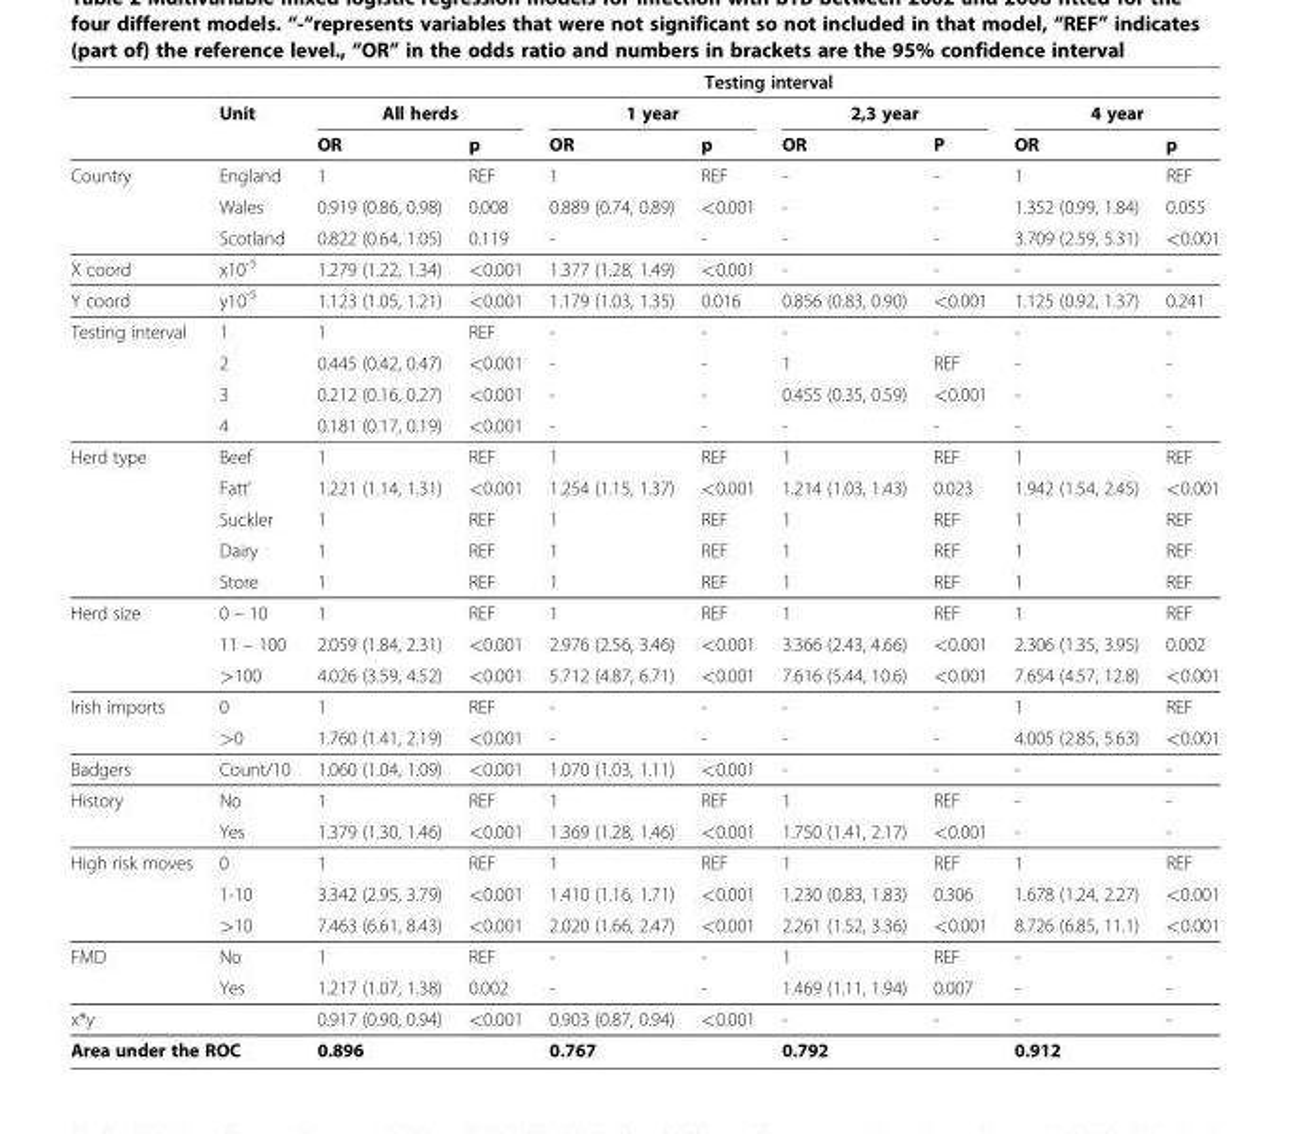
<table><thead><tr><td rowspan="3"></td><td rowspan="3">Unit</td><td colspan="8">Testing interval</td></tr><tr><td colspan="2">All herds</td><td colspan="2">1 year</td><td colspan="2">2,3 year</td><td colspan="2">4 year</td></tr><tr><td>OR</td><td>p</td><td>OR</td><td>p</td><td>OR</td><td>P</td><td>OR</td><td>p</td></tr></thead><tbody><tr><td rowspan="3">Country</td><td>England</td><td>1</td><td>REF</td><td>1</td><td>REF</td><td>-</td><td>-</td><td>1</td><td>REF</td></tr><tr><td>Wales</td><td>0.919 (0.86, 0.98)</td><td>0.008</td><td>0.889 (0.74, 0.89)</td><td>&lt;0.001</td><td>-</td><td>-</td><td>1.352 (0.99, 1.84)</td><td>0.055</td></tr><tr><td>Scotland</td><td>0.822 (0.64, 1.05)</td><td>0.119</td><td>-</td><td>-</td><td>-</td><td>-</td><td>3.709 (2.59, 5.31)</td><td>&lt;0.001</td></tr><tr><td>X coord</td><td>x10<sup>-5</sup></td><td>1.279 (1.22, 1.34)</td><td>&lt;0.001</td><td>1.377 (1.28, 1.49)</td><td>&lt;0.001</td><td>-</td><td>-</td><td>-</td><td>-</td></tr><tr><td>Y coord</td><td>y10<sup>-5</sup></td><td>1.123 (1.05, 1.21)</td><td>&lt;0.001</td><td>1.179 (1.03, 1.35)</td><td>0.016</td><td>0.856 (0.83, 0.90)</td><td>&lt;0.001</td><td>1.125 (0.92, 1.37)</td><td>0.241</td></tr><tr><td rowspan="4">Testing interval</td><td>1</td><td>1</td><td>REF</td><td>-</td><td>-</td><td>-</td><td>-</td><td>-</td><td>-</td></tr><tr><td>2</td><td>0.445 (0.42, 0.47)</td><td>&lt;0.001</td><td>-</td><td>-</td><td>1</td><td>REF</td><td>-</td><td>-</td></tr><tr><td>3</td><td>0.212 (0.16, 0.27)</td><td>&lt;0.001</td><td>-</td><td>-</td><td>0.455 (0.35, 0.59)</td><td>&lt;0.001</td><td>-</td><td>-</td></tr><tr><td>4</td><td>0.181 (0.17, 0.19)</td><td>&lt;0.001</td><td>-</td><td>-</td><td>-</td><td>-</td><td>-</td><td>-</td></tr><tr><td rowspan="5">Herd type</td><td>Beef</td><td>1</td><td>REF</td><td>1</td><td>REF</td><td>1</td><td>REF</td><td>1</td><td>REF</td></tr><tr><td>Fatt’</td><td>1.221 (1.14, 1.31)</td><td>&lt;0.001</td><td>1.254 (1.15, 1.37)</td><td>&lt;0.001</td><td>1.214 (1.03, 1.43)</td><td>0.023</td><td>1.942 (1.54, 2.45)</td><td>&lt;0.001</td></tr><tr><td>Suckler</td><td>1</td><td>REF</td><td>1</td><td>REF</td><td>1</td><td>REF</td><td>1</td><td>REF</td></tr><tr><td>Dairy</td><td>1</td><td>REF</td><td>1</td><td>REF</td><td>1</td><td>REF</td><td>1</td><td>REF</td></tr><tr><td>Store</td><td>1</td><td>REF</td><td>1</td><td>REF</td><td>1</td><td>REF</td><td>1</td><td>REF</td></tr><tr><td rowspan="3">Herd size</td><td>0 – 10</td><td>1</td><td>REF</td><td>1</td><td>REF</td><td>1</td><td>REF</td><td>1</td><td>REF</td></tr><tr><td>11 – 100</td><td>2.059 (1.84, 2.31)</td><td>&lt;0.001</td><td>2.976 (2.56, 3.46)</td><td>&lt;0.001</td><td>3.366 (2.43, 4.66)</td><td>&lt;0.001</td><td>2.306 (1.35, 3.95)</td><td>0.002</td></tr><tr><td>&gt;100</td><td>4.026 (3.59, 4.52)</td><td>&lt;0.001</td><td>5.712 (4.87, 6.71)</td><td>&lt;0.001</td><td>7.616 (5.44, 10.6)</td><td>&lt;0.001</td><td>7.654 (4.57, 12.8)</td><td>&lt;0.001</td></tr><tr><td rowspan="2">Irish imports</td><td>0</td><td>1</td><td>REF</td><td>-</td><td>-</td><td>-</td><td>-</td><td>1</td><td>REF</td></tr><tr><td>&gt;0</td><td>1.760 (1.41, 2.19)</td><td>&lt;0.001</td><td>-</td><td>-</td><td>-</td><td>-</td><td>4.005 (2.85, 5.63)</td><td>&lt;0.001</td></tr><tr><td>Badgers</td><td>Count/10</td><td>1.060 (1.04, 1.09)</td><td>&lt;0.001</td><td>1.070 (1.03, 1.11)</td><td>&lt;0.001</td><td>-</td><td>-</td><td>-</td><td>-</td></tr><tr><td rowspan="2">History</td><td>No</td><td>1</td><td>REF</td><td>1</td><td>REF</td><td>1</td><td>REF</td><td>-</td><td>-</td></tr><tr><td>Yes</td><td>1.379 (1.30, 1.46)</td><td>&lt;0.001</td><td>1.369 (1.28, 1.46)</td><td>&lt;0.001</td><td>1.750 (1.41, 2.17)</td><td>&lt;0.001</td><td>-</td><td>-</td></tr><tr><td rowspan="3">High risk moves</td><td>0</td><td>1</td><td>REF</td><td>1</td><td>REF</td><td>1</td><td>REF</td><td>1</td><td>REF</td></tr><tr><td>1-10</td><td>3.342 (2.95, 3.79)</td><td>&lt;0.001</td><td>1.410 (1.16, 1.71)</td><td>&lt;0.001</td><td>1.230 (0.83, 1.83)</td><td>0.306</td><td>1.678 (1.24, 2.27)</td><td>&lt;0.001</td></tr><tr><td>&gt;10</td><td>7.463 (6.61, 8.43)</td><td>&lt;0.001</td><td>2.020 (1.66, 2.47)</td><td>&lt;0.001</td><td>2.261 (1.52, 3.36)</td><td>&lt;0.001</td><td>8.726 (6.85, 11.1)</td><td>&lt;0.001</td></tr><tr><td rowspan="2">FMD</td><td>No</td><td>1</td><td>REF</td><td>-</td><td>-</td><td>1</td><td>REF</td><td>-</td><td>-</td></tr><tr><td>Yes</td><td>1.217 (1.07, 1.38)</td><td>0.002</td><td>-</td><td>-</td><td>1.469 (1.11, 1.94)</td><td>0.007</td><td>-</td><td>-</td></tr><tr><td>x*y</td><td></td><td>0.917 (0.90, 0.94)</td><td>&lt;0.001</td><td>0.903 (0.87, 0.94)</td><td>&lt;0.001</td><td>-</td><td>-</td><td>-</td><td>-</td></tr><tr><td colspan="2">Area under the ROC</td><td colspan="2">0.896</td><td colspan="2">0.767</td><td colspan="2">0.792</td><td colspan="2">0.912</td></tr></tbody></table>